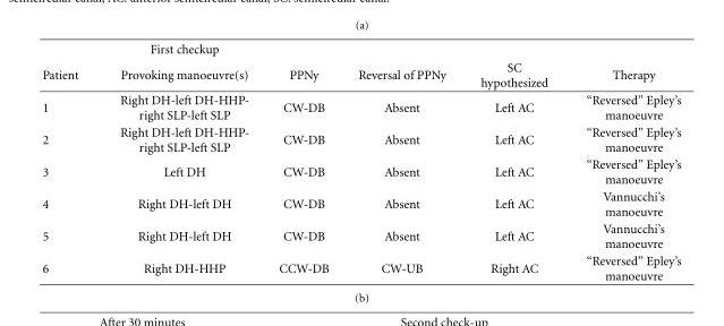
<table><thead><tr><td rowspan="2">Patient</td><td rowspan="2">First checkup Provoking manoeuvre(s)</td><td rowspan="2">PPNy</td><td rowspan="2">Reversal of PPNy</td><td rowspan="2">SC hypothesized</td><td rowspan="2">Therapy</td></tr><tr></tr></thead><tbody><tr><td>1</td><td>Right DH-left DH-HHP- right SLP-left SLP</td><td>CW-DB</td><td>Absent</td><td>Left AC</td><td>“Reversed” Epley’s manoeuvre</td></tr><tr><td>2</td><td>Right DH-left DH-HHP- right SLP-left SLP</td><td>CW-DB</td><td>Absent</td><td>Left AC</td><td>“Reversed” Epley’s manoeuvre</td></tr><tr><td>3</td><td>Left DH</td><td>CW-DB</td><td>Absent</td><td>Left AC</td><td>“Reversed” Epley’s manoeuvre</td></tr><tr><td>4</td><td>Right DH-left DH</td><td>CW-DB</td><td>Absent</td><td>Left AC</td><td>Vannucchi’s manoeuvre</td></tr><tr><td>5</td><td>Right DH-left DH</td><td>CW-DB</td><td>Absent</td><td>Left AC</td><td>Vannucchi’s manoeuvre</td></tr><tr><td>6</td><td>Right DH-HHP</td><td>CCW-DB</td><td>CW-UB</td><td>Right AC</td><td>“Reversed” Epley’s manoeuvre</td></tr></tbody></table>